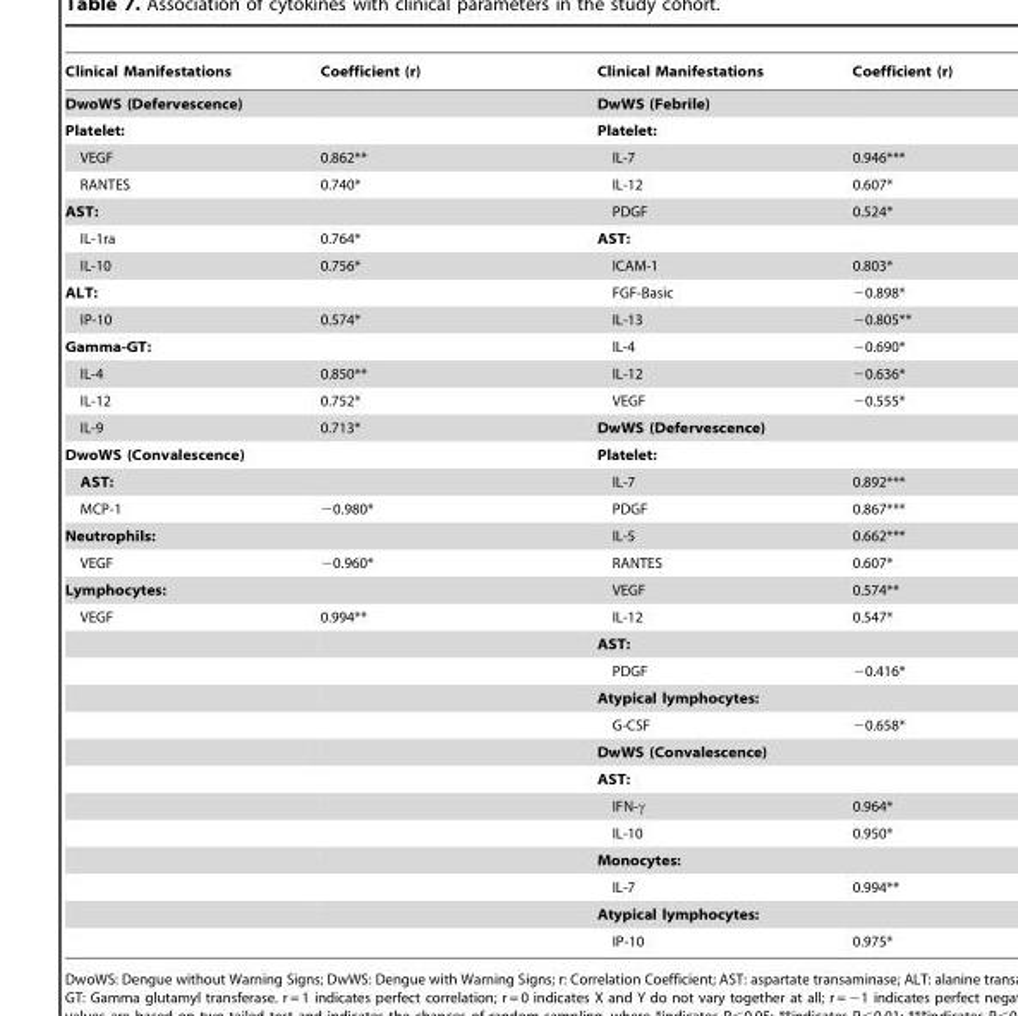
<table><thead><tr><td>Clinical Manifestations</td><td>Coefficient (r)</td><td>Clinical Manifestations</td><td>Coefficient (r)</td></tr></thead><tbody><tr><td colspan="2">DwoWS (Defervescence)</td><td colspan="2">DwWS (Febrile)</td></tr><tr><td>Platelet:</td><td></td><td>Platelet:</td><td></td></tr><tr><td>VEGF</td><td>0.862**</td><td>IL-7</td><td>0.946***</td></tr><tr><td>RANTES</td><td>0.740*</td><td>IL-12</td><td>0.607*</td></tr><tr><td colspan="2">AST:</td><td>PDGF</td><td>0.524*</td></tr><tr><td>IL-1ra</td><td>0.764*</td><td colspan="2">AST:</td></tr><tr><td>IL-10</td><td>0.756*</td><td>ICAM-1</td><td>0.803*</td></tr><tr><td colspan="2">ALT:</td><td>FGF-Basic</td><td>−0.898*</td></tr><tr><td>IP-10</td><td>0.574*</td><td>IL-13</td><td>−0.805**</td></tr><tr><td colspan="2">Gamma-GT:</td><td>IL-4</td><td>−0.690*</td></tr><tr><td>IL-4</td><td>0.850**</td><td>IL-12</td><td>−0.636*</td></tr><tr><td>IL-12</td><td>0.752*</td><td>VEGF</td><td>−0.555*</td></tr><tr><td>IL-9</td><td>0.713*</td><td colspan="2">DwWS (Defervescence)</td></tr><tr><td colspan="2">DwoWS (Convalescence)</td><td colspan="2">Platelet:</td></tr><tr><td colspan="2">AST:</td><td>IL-7</td><td>0.892***</td></tr><tr><td>MCP-1</td><td>−0.980*</td><td>PDGF</td><td>0.867***</td></tr><tr><td colspan="2">Neutrophils:</td><td>IL-5</td><td>0.662***</td></tr><tr><td>VEGF</td><td>−0.960*</td><td>RANTES</td><td>0.607*</td></tr><tr><td colspan="2">Lymphocytes:</td><td>VEGF</td><td>0.574**</td></tr><tr><td rowspan="13">VEGF</td><td>0.994**</td><td>IL-12</td><td>0.547*</td></tr><tr><td></td><td colspan="2">AST:</td></tr><tr><td></td><td>PDGF</td><td>−0.416*</td></tr><tr><td></td><td colspan="2">Atypical lymphocytes:</td></tr><tr><td></td><td>G-CSF</td><td>−0.658*</td></tr><tr><td></td><td colspan="2">DwWS (Convalescence)</td></tr><tr><td></td><td colspan="2">AST:</td></tr><tr><td></td><td>IFN-γ</td><td>0.964*</td></tr><tr><td></td><td>IL-10</td><td>0.950*</td></tr><tr><td></td><td colspan="2">Monocytes:</td></tr><tr><td></td><td>IL-7</td><td>0.994**</td></tr><tr><td></td><td colspan="2">Atypical lymphocytes:</td></tr><tr><td></td><td>IP-10</td><td>0.975*</td></tr></tbody></table>